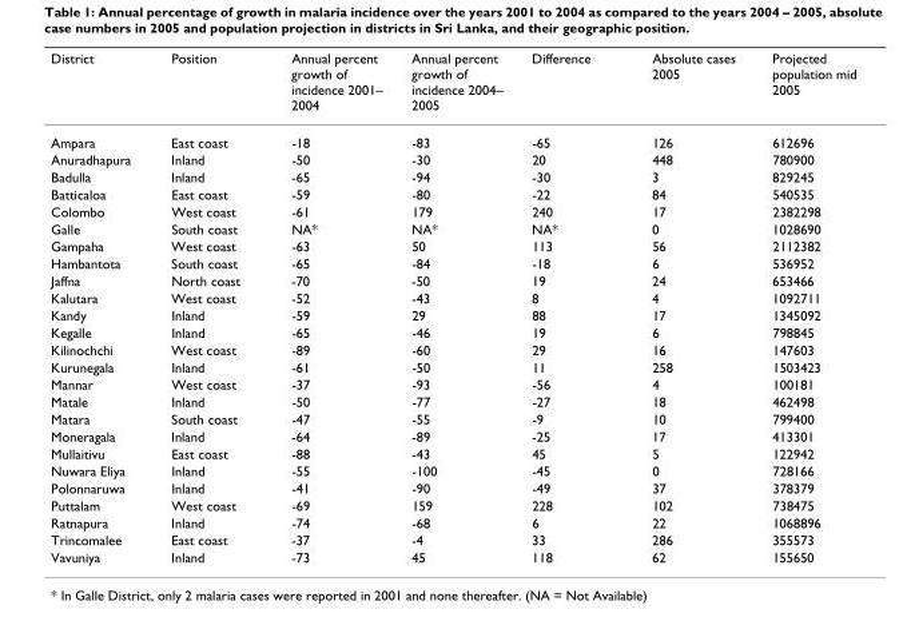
<table><thead><tr><td>District</td><td>Position</td><td>Annual percent growth of incidence 2001– 2004</td><td>Annual percent growth of incidence 2004– 2005</td><td>Difference</td><td>Absolute cases 2005</td><td>Projected population mid 2005</td></tr></thead><tbody><tr><td>Ampara</td><td>East coast</td><td>-18</td><td>-83</td><td>-65</td><td>126</td><td>612696</td></tr><tr><td>Anuradhapura</td><td>Inland</td><td>-50</td><td>-30</td><td>20</td><td>448</td><td>780900</td></tr><tr><td>Badulla</td><td>Inland</td><td>-65</td><td>-94</td><td>-30</td><td>3</td><td>829245</td></tr><tr><td>Batticaloa</td><td>East coast</td><td>-59</td><td>-80</td><td>-22</td><td>84</td><td>540535</td></tr><tr><td>Colombo</td><td>West coast</td><td>-61</td><td>179</td><td>240</td><td>17</td><td>2382298</td></tr><tr><td>Galle</td><td>South coast</td><td>NA*</td><td>NA*</td><td>NA*</td><td>0</td><td>1028690</td></tr><tr><td>Gampaha</td><td>West coast</td><td>-63</td><td>50</td><td>113</td><td>56</td><td>2112382</td></tr><tr><td>Hambantota</td><td>South coast</td><td>-65</td><td>-84</td><td>-18</td><td>6</td><td>536952</td></tr><tr><td>Jaffna</td><td>North coast</td><td>-70</td><td>-50</td><td>19</td><td>24</td><td>653466</td></tr><tr><td>Kalutara</td><td>West coast</td><td>-52</td><td>-43</td><td>8</td><td>4</td><td>1092711</td></tr><tr><td>Kandy</td><td>Inland</td><td>-59</td><td>29</td><td>88</td><td>17</td><td>1345092</td></tr><tr><td>Kegalle</td><td>Inland</td><td>-65</td><td>-46</td><td>19</td><td>6</td><td>798845</td></tr><tr><td>Kilinochchi</td><td>West coast</td><td>-89</td><td>-60</td><td>29</td><td>16</td><td>147603</td></tr><tr><td>Kurunegala</td><td>Inland</td><td>-61</td><td>-50</td><td>11</td><td>258</td><td>1503423</td></tr><tr><td>Mannar</td><td>West coast</td><td>-37</td><td>-93</td><td>-56</td><td>4</td><td>100181</td></tr><tr><td>Matale</td><td>Inland</td><td>-50</td><td>-77</td><td>-27</td><td>18</td><td>462498</td></tr><tr><td>Matara</td><td>South coast</td><td>-47</td><td>-55</td><td>-9</td><td>10</td><td>799400</td></tr><tr><td>Moneragala</td><td>Inland</td><td>-64</td><td>-89</td><td>-25</td><td>17</td><td>413301</td></tr><tr><td>Mullaitivu</td><td>East coast</td><td>-88</td><td>-43</td><td>45</td><td>5</td><td>122942</td></tr><tr><td>Nuwara Eliya</td><td>Inland</td><td>-55</td><td>-100</td><td>-45</td><td>0</td><td>728166</td></tr><tr><td>Polonnaruwa</td><td>Inland</td><td>-41</td><td>-90</td><td>-49</td><td>37</td><td>378379</td></tr><tr><td>Puttalam</td><td>West coast</td><td>-69</td><td>159</td><td>228</td><td>102</td><td>738475</td></tr><tr><td>Ratnapura</td><td>Inland</td><td>-74</td><td>-68</td><td>6</td><td>22</td><td>1068896</td></tr><tr><td>Trincomalee</td><td>East coast</td><td>-37</td><td>-4</td><td>33</td><td>286</td><td>355573</td></tr><tr><td>Vavuniya</td><td>Inland</td><td>-73</td><td>45</td><td>118</td><td>62</td><td>155650</td></tr></tbody></table>